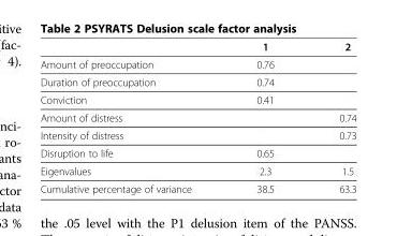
<table><thead><tr><td></td><td>1</td><td>2</td></tr></thead><tbody><tr><td>Amount of preoccupation</td><td>0.76</td><td></td></tr><tr><td>Duration of preoccupation</td><td>0.74</td><td></td></tr><tr><td>Conviction</td><td>0.41</td><td></td></tr><tr><td>Amount of distress</td><td></td><td>0.74</td></tr><tr><td>Intensity of distress</td><td></td><td>0.73</td></tr><tr><td>Disruption to life</td><td>0.65</td><td></td></tr><tr><td>Eigenvalues</td><td>2.3</td><td>1.5</td></tr><tr><td>Cumulative percentage of variance</td><td>38.5</td><td>63.3</td></tr></tbody></table>